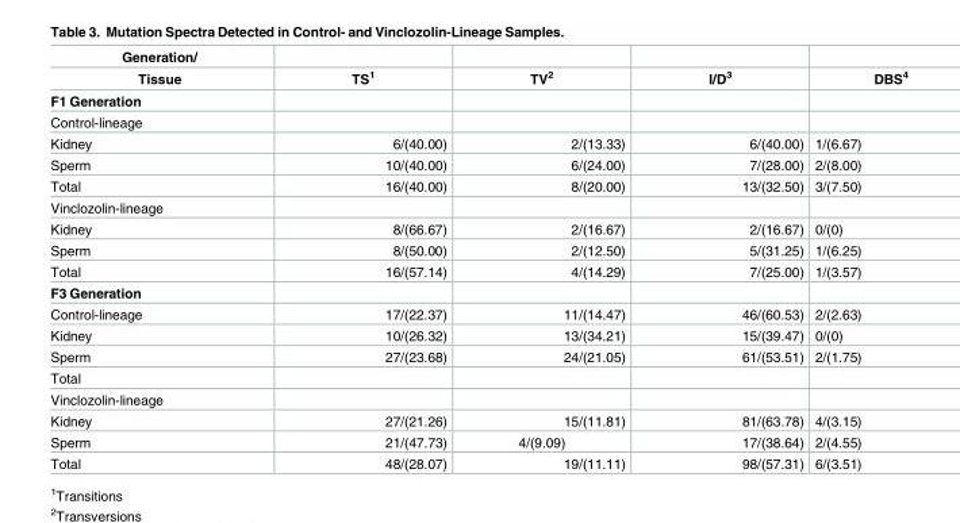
<table><thead><tr><td rowspan="2">Generation/ Tissue</td><td rowspan="2">TS<sup>1</sup></td><td rowspan="2">TV<sup>2</sup></td><td rowspan="2">I/D<sup>3</sup></td><td rowspan="2">DBS<sup>4</sup></td></tr><tr></tr></thead><tbody><tr><td colspan="5">F1 Generation</td></tr><tr><td colspan="5">Control-lineage</td></tr><tr><td>Kidney</td><td>6/(40.00)</td><td>2/(13.33)</td><td>6/(40.00)</td><td>1/(6.67)</td></tr><tr><td>Sperm</td><td>10/(40.00)</td><td>6/(24.00)</td><td>7/(28.00)</td><td>2/(8.00)</td></tr><tr><td>Total</td><td>16/(40.00)</td><td>8/(20.00)</td><td>13/(32.50)</td><td>3/(7.50)</td></tr><tr><td colspan="5">Vinclozolin-lineage</td></tr><tr><td>Kidney</td><td>8/(66.67)</td><td>2/(16.67)</td><td>2/(16.67)</td><td>0/(0)</td></tr><tr><td>Sperm</td><td>8/(50.00)</td><td>2/(12.50)</td><td>5/(31.25)</td><td>1/(6.25)</td></tr><tr><td>Total</td><td>16/(57.14)</td><td>4/(14.29)</td><td>7/(25.00)</td><td>1/(3.57)</td></tr><tr><td colspan="5">F3 Generation</td></tr><tr><td>Control-lineage</td><td>17/(22.37)</td><td>11/(14.47)</td><td>46/(60.53)</td><td>2/(2.63)</td></tr><tr><td>Kidney</td><td>10/(26.32)</td><td>13/(34.21)</td><td>15/(39.47)</td><td>0/(0)</td></tr><tr><td>Sperm</td><td>27/(23.68)</td><td>24/(21.05)</td><td>61/(53.51)</td><td>2/(1.75)</td></tr><tr><td colspan="5">Total</td></tr><tr><td colspan="5">Vinclozolin-lineage</td></tr><tr><td>Kidney</td><td>27/(21.26)</td><td>15/(11.81)</td><td>81/(63.78)</td><td>4/(3.15)</td></tr><tr><td>Sperm</td><td>21/(47.73)</td><td>4/(9.09)</td><td>17/(38.64)</td><td>2/(4.55)</td></tr><tr><td>Total</td><td>48/(28.07)</td><td>19/(11.11)</td><td>98/(57.31)</td><td>6/(3.51)</td></tr></tbody></table>